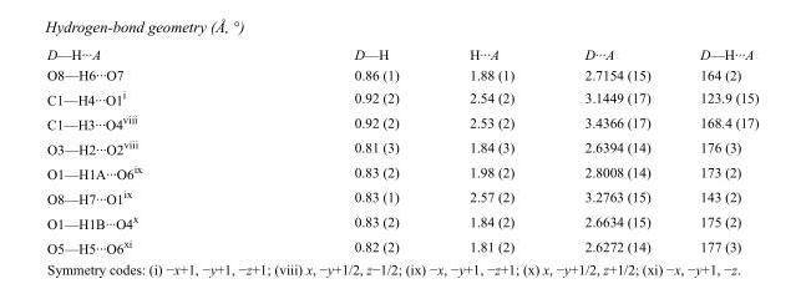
<table><tbody><tr><td>D—H···A</td><td>D—H</td><td>H···A</td><td>D···A</td><td>D—H···A</td></tr><tr><td>O8—H6···O7</td><td>0.86 (1)</td><td>1.88 (1)</td><td>2.7154 (15)</td><td>164 (2)</td></tr><tr><td>C1—H4···O1<sup>i</sup></td><td>0.92 (2)</td><td>2.54 (2)</td><td>3.1449 (17)</td><td>123.9 (15)</td></tr><tr><td>C1—H3···O4<sup>viii</sup></td><td>0.92 (2)</td><td>2.53 (2)</td><td>3.4366 (17)</td><td>168.4 (17)</td></tr><tr><td>O3—H2···O2<sup>viii</sup></td><td>0.81 (3)</td><td>1.84 (3)</td><td>2.6394 (14)</td><td>176 (3)</td></tr><tr><td>O1—H1A···O6<sup>ix</sup></td><td>0.83 (2)</td><td>1.98 (2)</td><td>2.8008 (14)</td><td>173 (2)</td></tr><tr><td>O8—H7···O1<sup>ix</sup></td><td>0.83 (1)</td><td>2.57 (2)</td><td>3.2763 (15)</td><td>143 (2)</td></tr><tr><td>O1—H1B···O4<sup>x</sup></td><td>0.83 (2)</td><td>1.84 (2)</td><td>2.6634 (15)</td><td>175 (2)</td></tr><tr><td>O5—H5···O6<sup>xi</sup></td><td>0.82 (2)</td><td>1.81 (2)</td><td>2.6272 (14)</td><td>177 (3)</td></tr></tbody></table>